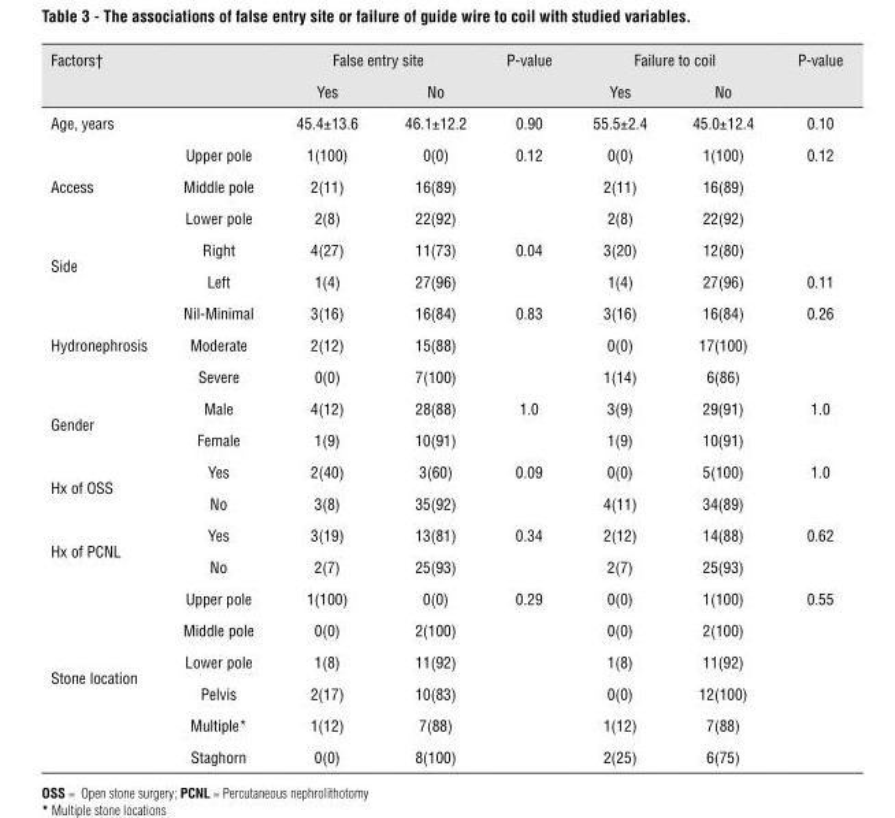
<table><thead><tr><td rowspan="2">Factors†</td><td rowspan="2"></td><td colspan="2">False entry site</td><td rowspan="2">P-value</td><td colspan="2">Failure to coil</td><td rowspan="2">P-value</td></tr><tr><td>Yes</td><td>No</td><td>Yes</td><td>No</td></tr></thead><tbody><tr><td>Age, years</td><td></td><td>45.4±13.6</td><td>46.1±12.2</td><td>0.90</td><td>55.5±2.4</td><td>45.0±12.4</td><td>0.10</td></tr><tr><td rowspan="3">Access</td><td>Upper pole</td><td>1(100)</td><td>0(0)</td><td>0.12</td><td>0(0)</td><td>1(100)</td><td>0.12</td></tr><tr><td>Middle pole</td><td>2(11)</td><td>16(89)</td><td></td><td>2(11)</td><td>16(89)</td><td></td></tr><tr><td>Lower pole</td><td>2(8)</td><td>22(92)</td><td></td><td>2(8)</td><td>22(92)</td><td></td></tr><tr><td rowspan="2">Side</td><td>Right</td><td>4(27)</td><td>11(73)</td><td>0.04</td><td>3(20)</td><td>12(80)</td><td></td></tr><tr><td>Left</td><td>1(4)</td><td>27(96)</td><td></td><td>1(4)</td><td>27(96)</td><td>0.11</td></tr><tr><td rowspan="3">Hydronephrosis</td><td>Nil-Minimal</td><td>3(16)</td><td>16(84)</td><td>0.83</td><td>3(16)</td><td>16(84)</td><td>0.26</td></tr><tr><td>Moderate</td><td>2(12)</td><td>15(88)</td><td></td><td>0(0)</td><td>17(100)</td><td></td></tr><tr><td>Severe</td><td>0(0)</td><td>7(100)</td><td></td><td>1(14)</td><td>6(86)</td><td></td></tr><tr><td rowspan="2">Gender</td><td>Male</td><td>4(12)</td><td>28(88)</td><td>1.0</td><td>3(9)</td><td>29(91)</td><td>1.0</td></tr><tr><td>Female</td><td>1(9)</td><td>10(91)</td><td></td><td>1(9)</td><td>10(91)</td><td></td></tr><tr><td rowspan="2">Hx of OSS</td><td>Yes</td><td>2(40)</td><td>3(60)</td><td>0.09</td><td>0(0)</td><td>5(100)</td><td>1.0</td></tr><tr><td>No</td><td>3(8)</td><td>35(92)</td><td></td><td>4(11)</td><td>34(89)</td><td></td></tr><tr><td rowspan="2">Hx of PCNL</td><td>Yes</td><td>3(19)</td><td>13(81)</td><td>0.34</td><td>2(12)</td><td>14(88)</td><td>0.62</td></tr><tr><td>No</td><td>2(7)</td><td>25(93)</td><td></td><td>2(7)</td><td>25(93)</td><td></td></tr><tr><td rowspan="6">Stone location</td><td>Upper pole</td><td>1(100)</td><td>0(0)</td><td>0.29</td><td>0(0)</td><td>1(100)</td><td>0.55</td></tr><tr><td>Middle pole</td><td>0(0)</td><td>2(100)</td><td></td><td>0(0)</td><td>2(100)</td><td></td></tr><tr><td>Lower pole</td><td>1(8)</td><td>11(92)</td><td></td><td>1(8)</td><td>11(92)</td><td></td></tr><tr><td>Pelvis</td><td>2(17)</td><td>10(83)</td><td></td><td>0(0)</td><td>12(100)</td><td></td></tr><tr><td>Multiple*</td><td>1(12)</td><td>7(88)</td><td></td><td>1(12)</td><td>7(88)</td><td></td></tr><tr><td>Staghorn</td><td>0(0)</td><td>8(100)</td><td></td><td>2(25)</td><td>6(75)</td><td></td></tr></tbody></table>